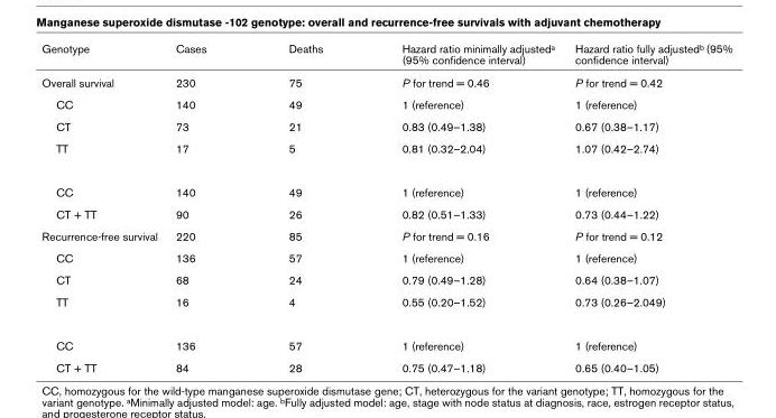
<table><thead><tr><td>Genotype</td><td>Cases</td><td>Deaths</td><td>Hazard ratio minimally adjusteda (95% confidence interval)</td><td>Hazard ratio fully adjustedb (95% confidence interval)</td></tr></thead><tbody><tr><td>Overall survival</td><td>230</td><td>75</td><td>P for trend = 0.46</td><td>P for trend = 0.42</td></tr><tr><td>CC</td><td>140</td><td>49</td><td>1 (reference)</td><td>1 (reference)</td></tr><tr><td>CT</td><td>73</td><td>21</td><td>0.83 (0.49–1.38)</td><td>0.67 (0.38–1.17)</td></tr><tr><td>TT</td><td>17</td><td>5</td><td>0.81 (0.32–2.04)</td><td>1.07 (0.42–2.74)</td></tr><tr><td>CC</td><td>140</td><td>49</td><td>1 (reference)</td><td>1 (reference)</td></tr><tr><td>CT + TT</td><td>90</td><td>26</td><td>0.82 (0.51–1.33)</td><td>0.73 (0.44–1.22)</td></tr><tr><td>Recurrence-free survival</td><td>220</td><td>85</td><td>P for trend = 0.16</td><td>P for trend = 0.12</td></tr><tr><td>CC</td><td>136</td><td>57</td><td>1 (reference)</td><td>1 (reference)</td></tr><tr><td>CT</td><td>68</td><td>24</td><td>0.79 (0.49–1.28)</td><td>0.64 (0.38–1.07)</td></tr><tr><td>TT</td><td>16</td><td>4</td><td>0.55 (0.20–1.52)</td><td>0.73 (0.26–2.049)</td></tr><tr><td>CC</td><td>136</td><td>57</td><td>1 (reference)</td><td>1 (reference)</td></tr><tr><td>CT + TT</td><td>84</td><td>28</td><td>0.75 (0.47–1.18)</td><td>0.65 (0.40–1.05)</td></tr></tbody></table>